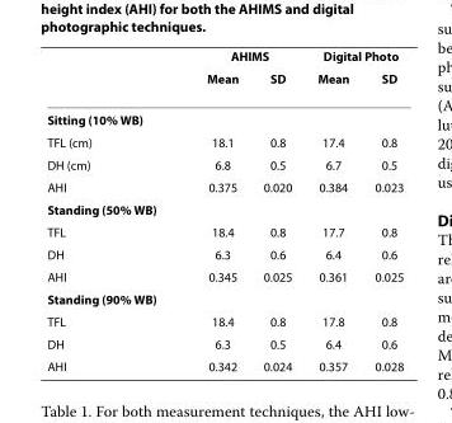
<table><thead><tr><td rowspan="2"></td><td colspan="2">AHIMS</td><td colspan="2">Digital Photo</td></tr><tr><td>Mean</td><td>SD</td><td>Mean</td><td>SD</td></tr></thead><tbody><tr><td colspan="5">Sitting (10% WB)</td></tr><tr><td>TFL (cm)</td><td>18.1</td><td>0.8</td><td>17.4</td><td>0.8</td></tr><tr><td>DH (cm)</td><td>6.8</td><td>0.5</td><td>6.7</td><td>0.5</td></tr><tr><td>AHI</td><td>0.375</td><td>0.020</td><td>0.384</td><td>0.023</td></tr><tr><td colspan="5">Standing (50% WB)</td></tr><tr><td>TFL</td><td>18.4</td><td>0.8</td><td>17.7</td><td>0.8</td></tr><tr><td>DH</td><td>6.3</td><td>0.6</td><td>6.4</td><td>0.6</td></tr><tr><td>AHI</td><td>0.345</td><td>0.025</td><td>0.361</td><td>0.025</td></tr><tr><td colspan="5">Standing (90% WB)</td></tr><tr><td>TFL</td><td>18.4</td><td>0.8</td><td>17.8</td><td>0.8</td></tr><tr><td>DH</td><td>6.3</td><td>0.5</td><td>6.4</td><td>0.6</td></tr><tr><td>AHI</td><td>0.342</td><td>0.024</td><td>0.357</td><td>0.028</td></tr></tbody></table>